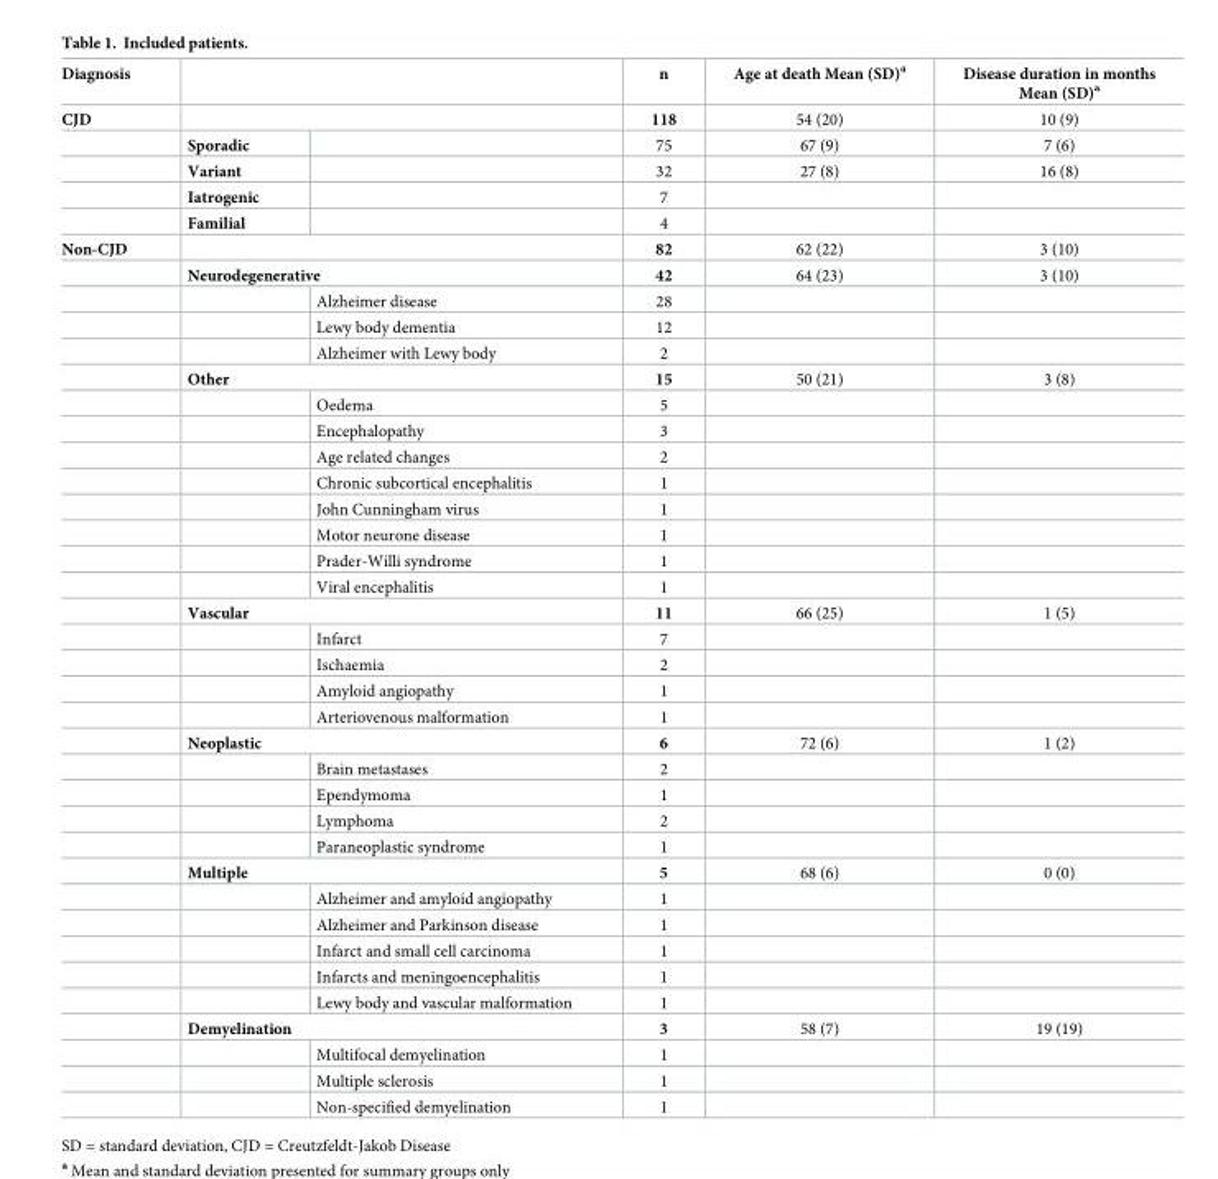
<table><thead><tr><td>Diagnosis</td><td></td><td></td><td>n</td><td>Age at death Mean (SD)<sup>a</sup></td><td>Disease duration in months Mean (SD)<sup>a</sup></td></tr></thead><tbody><tr><td rowspan="5">CJD</td><td colspan="2"></td><td>118</td><td>54 (20)</td><td>10 (9)</td></tr><tr><td>Sporadic</td><td></td><td>75</td><td>67 (9)</td><td>7 (6)</td></tr><tr><td>Variant</td><td></td><td>32</td><td>27 (8)</td><td>16 (8)</td></tr><tr><td>Iatrogenic</td><td></td><td>7</td><td></td><td></td></tr><tr><td>Familial</td><td></td><td>4</td><td></td><td></td></tr><tr><td rowspan="34">Non-CJD</td><td colspan="2"></td><td>82</td><td>62 (22)</td><td>3 (10)</td></tr><tr><td colspan="2">Neurodegenerative</td><td>42</td><td>64 (23)</td><td>3 (10)</td></tr><tr><td></td><td>Alzheimer disease</td><td>28</td><td></td><td></td></tr><tr><td></td><td>Lewy body dementia</td><td>12</td><td></td><td></td></tr><tr><td></td><td>Alzheimer with Lewy body</td><td>2</td><td></td><td></td></tr><tr><td colspan="2">Other</td><td>15</td><td>50 (21)</td><td>3 (8)</td></tr><tr><td></td><td>Oedema</td><td>5</td><td></td><td></td></tr><tr><td></td><td>Encephalopathy</td><td>3</td><td></td><td></td></tr><tr><td></td><td>Age related changes</td><td>2</td><td></td><td></td></tr><tr><td></td><td>Chronic subcortical encephalitis</td><td>1</td><td></td><td></td></tr><tr><td></td><td>John Cunningham virus</td><td>1</td><td></td><td></td></tr><tr><td></td><td>Motor neurone disease</td><td>1</td><td></td><td></td></tr><tr><td></td><td>Prader-Willi syndrome</td><td>1</td><td></td><td></td></tr><tr><td></td><td>Viral encephalitis</td><td>1</td><td></td><td></td></tr><tr><td colspan="2">Vascular</td><td>11</td><td>66 (25)</td><td>1 (5)</td></tr><tr><td></td><td>Infarct</td><td>7</td><td></td><td></td></tr><tr><td></td><td>Ischaemia</td><td>2</td><td></td><td></td></tr><tr><td></td><td>Amyloid angiopathy</td><td>1</td><td></td><td></td></tr><tr><td></td><td>Arteriovenous malformation</td><td>1</td><td></td><td></td></tr><tr><td colspan="2">Neoplastic</td><td>6</td><td>72 (6)</td><td>1 (2)</td></tr><tr><td></td><td>Brain metastases</td><td>2</td><td></td><td></td></tr><tr><td></td><td>Ependymoma</td><td>1</td><td></td><td></td></tr><tr><td></td><td>Lymphoma</td><td>2</td><td></td><td></td></tr><tr><td></td><td>Paraneoplastic syndrome</td><td>1</td><td></td><td></td></tr><tr><td colspan="2">Multiple</td><td>5</td><td>68 (6)</td><td>0 (0)</td></tr><tr><td></td><td>Alzheimer and amyloid angiopathy</td><td>1</td><td></td><td></td></tr><tr><td></td><td>Alzheimer and Parkinson disease</td><td>1</td><td></td><td></td></tr><tr><td></td><td>Infarct and small cell carcinoma</td><td>1</td><td></td><td></td></tr><tr><td></td><td>Infarcts and meningoencephalitis</td><td>1</td><td></td><td></td></tr><tr><td></td><td>Lewy body and vascular malformation</td><td>1</td><td></td><td></td></tr><tr><td colspan="2">Demyelination</td><td>3</td><td>58 (7)</td><td>19 (19)</td></tr><tr><td></td><td>Multifocal demyelination</td><td>1</td><td></td><td></td></tr><tr><td></td><td>Multiple sclerosis</td><td>1</td><td></td><td></td></tr><tr><td></td><td>Non-specified demyelination</td><td>1</td><td></td><td></td></tr></tbody></table>